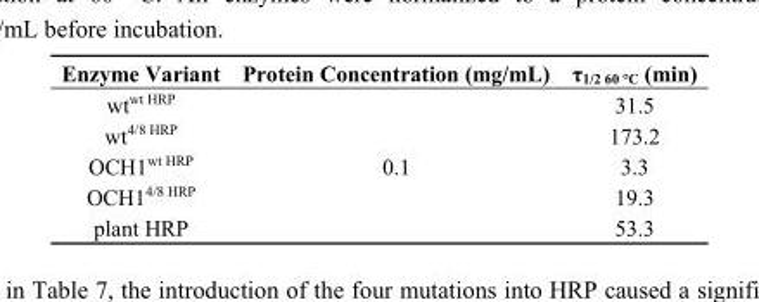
<table><thead><tr><td>Enzyme Variant</td><td>Protein Concentration (mg/mL)</td><td>τ<sub>1/2 60 °C</sub> (min)</td></tr></thead><tbody><tr><td>wt<sup>wt HRP</sup></td><td rowspan="5">0.1</td><td>31.5</td></tr><tr><td>wt<sup>4/8 HRP</sup></td><td>173.2</td></tr><tr><td>OCH1<sup>wt HRP</sup></td><td>3.3</td></tr><tr><td>OCH1<sup>4/8 HRP</sup></td><td>19.3</td></tr><tr><td>plant HRP</td><td>53.3</td></tr></tbody></table>